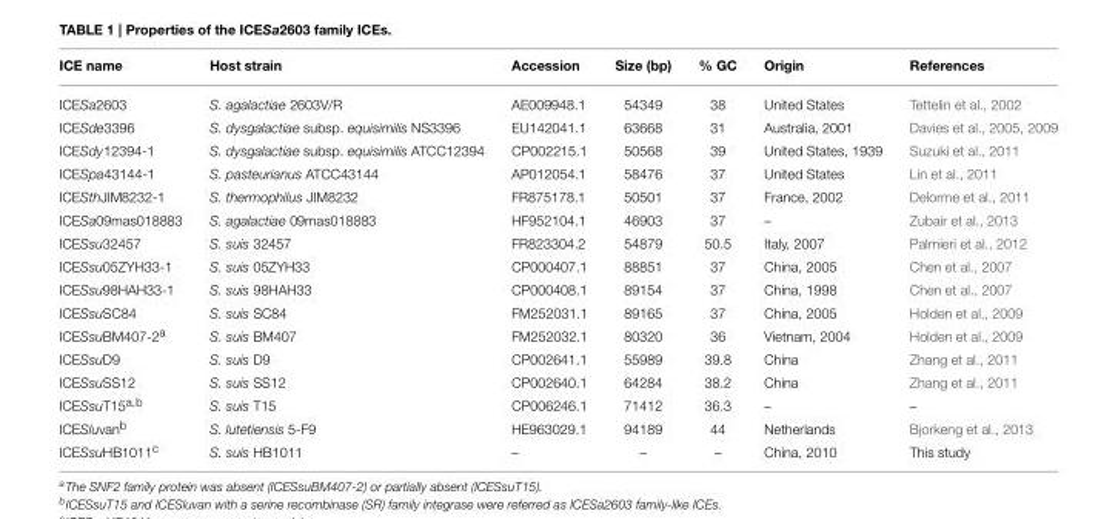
<table><thead><tr><td>ICE name</td><td>Host strain</td><td>Accession</td><td>Size (bp)</td><td>% GC</td><td>Origin</td><td>References</td></tr></thead><tbody><tr><td>ICESa2603</td><td>S. agalactiae 2603V/R</td><td>AE009948.1</td><td>54349</td><td>38</td><td>United States</td><td>Tettelin et al., 2002</td></tr><tr><td>ICESde3396</td><td>S. dysgalactiae subsp. equisimilis NS3396</td><td>EU142041.1</td><td>63668</td><td>31</td><td>Australia, 2001</td><td>Davies et al., 2005, 2009</td></tr><tr><td>ICESdy12394-1</td><td>S. dysgalactiae subsp. equisimilis ATCC12394</td><td>CP002215.1</td><td>50568</td><td>39</td><td>United States, 1939</td><td>Suzuki et al., 2011</td></tr><tr><td>ICESpa43144-1</td><td>S. pasteurianus ATCC43144</td><td>AP012054.1</td><td>58476</td><td>37</td><td>United States</td><td>Lin et al., 2011</td></tr><tr><td>ICESthJIM8232-1</td><td>S. thermophilus JIM8232</td><td>FR875178.1</td><td>50501</td><td>37</td><td>France, 2002</td><td>Delorme et al., 2011</td></tr><tr><td>ICESa09mas018883</td><td>S. agalactiae 09mas018883</td><td>HF952104.1</td><td>46903</td><td>37</td><td>–</td><td>Zubair et al., 2013</td></tr><tr><td>ICESsu32457</td><td>S. suis 32457</td><td>FR823304.2</td><td>54879</td><td>50.5</td><td>Italy, 2007</td><td>Palmieri et al., 2012</td></tr><tr><td>ICESsu05ZYH33-1</td><td>S. suis 05ZYH33</td><td>CP000407.1</td><td>88851</td><td>37</td><td>China, 2005</td><td>Chen et al., 2007</td></tr><tr><td>ICESsu98HAH33-1</td><td>S. suis 98HAH33</td><td>CP000408.1</td><td>89154</td><td>37</td><td>China, 1998</td><td>Chen et al., 2007</td></tr><tr><td>ICESsuSC84</td><td>S. suis SC84</td><td>FM252031.1</td><td>89165</td><td>37</td><td>China, 2005</td><td>Holden et al., 2009</td></tr><tr><td>ICESsuBM407-2<sup>a</sup></td><td>S. suis BM407</td><td>FM252032.1</td><td>80320</td><td>36</td><td>Vietnam, 2004</td><td>Holden et al., 2009</td></tr><tr><td>ICESsuD9</td><td>S. suis D9</td><td>CP002641.1</td><td>55989</td><td>39.8</td><td>China</td><td>Zhang et al., 2011</td></tr><tr><td>ICESsuSS12</td><td>S. suis SS12</td><td>CP002640.1</td><td>64284</td><td>38.2</td><td>China</td><td>Zhang et al., 2011</td></tr><tr><td>ICESsuT15<sup>a,b</sup></td><td>S. suis T15</td><td>CP006246.1</td><td>71412</td><td>36.3</td><td>–</td><td>–</td></tr><tr><td>ICESluvan<sup>b</sup></td><td>S. lutetiensis 5-F9</td><td>HE963029.1</td><td>94189</td><td>44</td><td>Netherlands</td><td>Bjorkeng et al., 2013</td></tr><tr><td>ICESsuHB1011<sup>c</sup></td><td>S. suis HB1011</td><td>–</td><td>–</td><td>–</td><td>China, 2010</td><td>This study</td></tr></tbody></table>